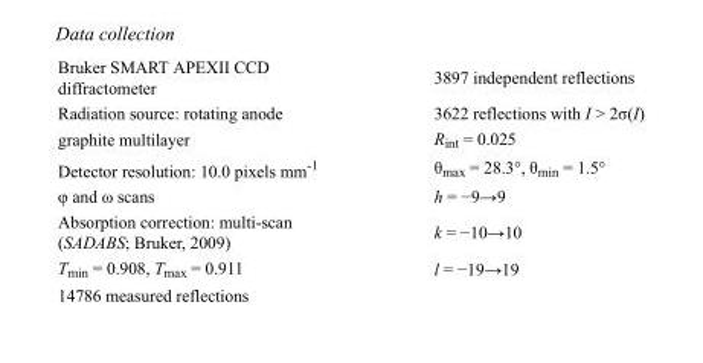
<table><tbody><tr><td>Bruker SMART APEXII CCD diffractometer</td><td>3897 independent reflections</td></tr><tr><td>Radiation source: rotating anode</td><td>3622 reflections with I &gt; 2σ(I)</td></tr><tr><td>graphite multilayer</td><td>R<sub>int</sub> = 0.025</td></tr><tr><td>Detector resolution: 10.0 pixels mm<sup>-1</sup></td><td>θ<sub>max</sub> = 28.3°, θ<sub>min</sub> = 1.5°</td></tr><tr><td>φ and ω scans</td><td>h = −9→9</td></tr><tr><td>Absorption correction: multi-scan (SADABS; Bruker, 2009)</td><td>k = −10→10</td></tr><tr><td>T<sub>min</sub> = 0.908, T<sub>max</sub> = 0.911</td><td>l = −19→19</td></tr><tr><td>14786 measured reflections</td><td></td></tr></tbody></table>